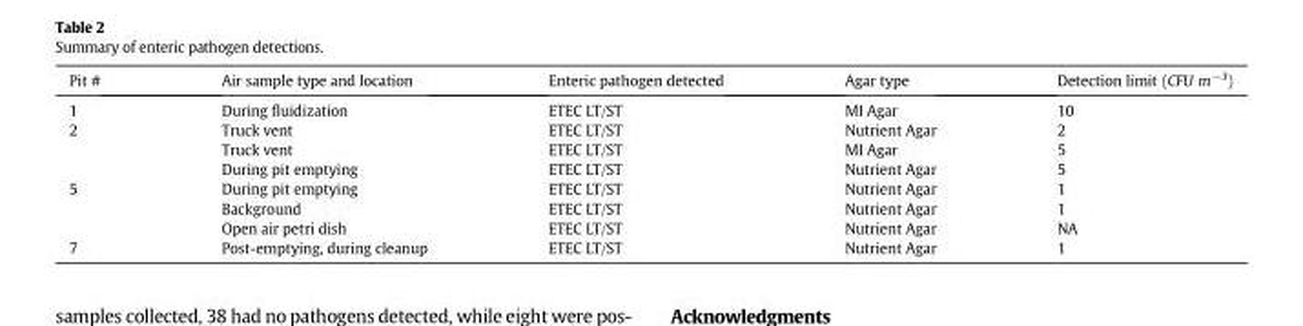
<table><thead><tr><td>Pit #</td><td>Air sample type and location</td><td>Enteric pathogen detected</td><td>Agar type</td><td>Detection limit (CFU m<sup>−3</sup>)</td></tr></thead><tbody><tr><td>1</td><td>During fluidization</td><td>ETEC LT/ST</td><td>MI Agar</td><td>10</td></tr><tr><td rowspan="3">2</td><td>Truck vent</td><td>ETEC LT/ST</td><td>Nutrient Agar</td><td>2</td></tr><tr><td>Truck vent</td><td>ETEC LT/ST</td><td>MI Agar</td><td>5</td></tr><tr><td>During pit emptying</td><td>ETEC LT/ST</td><td>Nutrient Agar</td><td>5</td></tr><tr><td rowspan="3">5</td><td>During pit emptying</td><td>ETEC LT/ST</td><td>Nutrient Agar</td><td>1</td></tr><tr><td>Background</td><td>ETEC LT/ST</td><td>Nutrient Agar</td><td>1</td></tr><tr><td>Open air petri dish</td><td>ETEC LT/ST</td><td>Nutrient Agar</td><td>NA</td></tr><tr><td>7</td><td>Post-emptying, during cleanup</td><td>ETEC LT/ST</td><td>Nutrient Agar</td><td>1</td></tr></tbody></table>